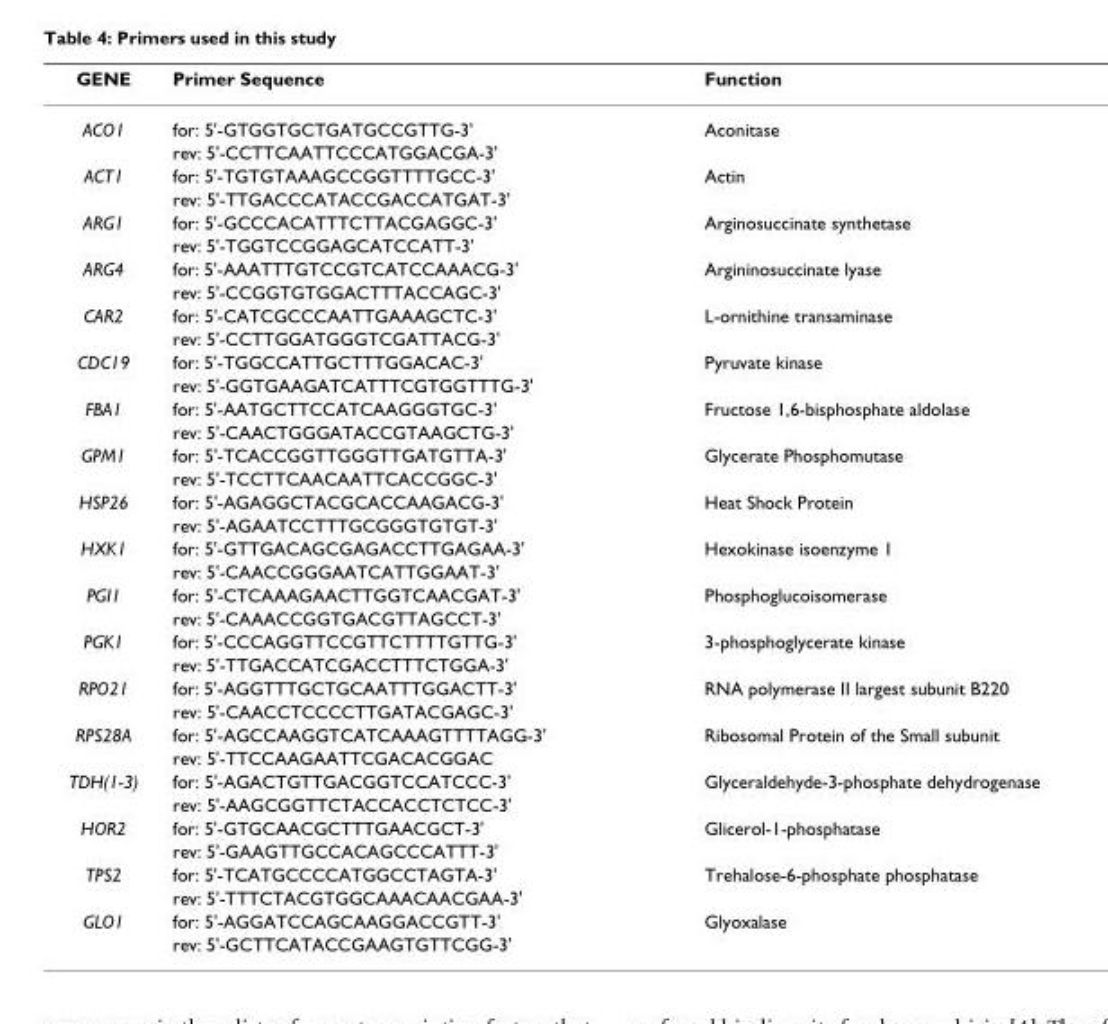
<table><thead><tr><td>GENE</td><td>Primer Sequence</td><td>Function</td></tr></thead><tbody><tr><td rowspan="2">ACO1</td><td>for: 5&#x27;-GTGGTGCTGATGCCGTTG-3&#x27;</td><td>Aconitase</td></tr><tr><td>rev: 5&#x27;-CCTTCAATTCCCATGGACGA-3&#x27;</td><td></td></tr><tr><td rowspan="2">ACT1</td><td>for: 5&#x27;-TGTGTAAAGCCGGTTTTGCC-3&#x27;</td><td>Actin</td></tr><tr><td>rev: 5&#x27;-TTGACCCATACCGACCATGAT-3&#x27;</td><td></td></tr><tr><td rowspan="2">ARG1</td><td>for: 5&#x27;-GCCCACATTTCTTACGAGGC-3&#x27;</td><td>Arginosuccinate synthetase</td></tr><tr><td>rev: 5&#x27;-TGGTCCGGAGCATCCATT-3&#x27;</td><td></td></tr><tr><td rowspan="2">ARG4</td><td>for: 5&#x27;-AAATTTGTCCGTCATCCAAACG-3&#x27;</td><td>Argininosuccinate lyase</td></tr><tr><td>rev: 5&#x27;-CCGGTGTGGACTTTACCAGC-3&#x27;</td><td></td></tr><tr><td rowspan="2">CAR2</td><td>for: 5&#x27;-CATCGCCCAATTGAAAGCTC-3&#x27;</td><td>L-ornithine transaminase</td></tr><tr><td>rev: 5&#x27;-CCTTGGATGGGTCGATTACG-3&#x27;</td><td></td></tr><tr><td rowspan="2">CDC19</td><td>for: 5&#x27;-TGGCCATTGCTTTGGACAC-3&#x27;</td><td>Pyruvate kinase</td></tr><tr><td>rev: 5&#x27;-GGTGAAGATCATTTCGTGGTTTG-3&#x27;</td><td></td></tr><tr><td rowspan="2">FBA1</td><td>for: 5&#x27;-AATGCTTCCATCAAGGGTGC-3&#x27;</td><td>Fructose 1,6-bisphosphate aldolase</td></tr><tr><td>rev: 5&#x27;-CAACTGGGATACCGTAAGCTG-3&#x27;</td><td></td></tr><tr><td rowspan="2">GPM1</td><td>for: 5&#x27;-TCACCGGTTGGGTTGATGTTA-3&#x27;</td><td>Glycerate Phosphomutase</td></tr><tr><td>rev: 5&#x27;-TCCTTCAACAATTCACCGGC-3&#x27;</td><td></td></tr><tr><td rowspan="2">HSP26</td><td>for: 5&#x27;-AGAGGCTACGCACCAAGACG-3&#x27;</td><td>Heat Shock Protein</td></tr><tr><td>rev: 5&#x27;-AGAATCCTTTGCGGGTGTGT-3&#x27;</td><td></td></tr><tr><td rowspan="2">HXK1</td><td>for: 5&#x27;-GTTGACAGCGAGACCTTGAGAA-3&#x27;</td><td>Hexokinase isoenzyme 1</td></tr><tr><td>rev: 5&#x27;-CAACCGGGAATCATTGGAAT-3&#x27;</td><td></td></tr><tr><td rowspan="2">PGI1</td><td>for: 5&#x27;-CTCAAAGAACTTGGTCAACGAT-3&#x27;</td><td>Phosphoglucoisomerase</td></tr><tr><td>rev: 5&#x27;-CAAACCGGTGACGTTAGCCT-3&#x27;</td><td></td></tr><tr><td rowspan="2">PGK1</td><td>for: 5&#x27;-CCCAGGTTCCGTTCTTTTGTTG-3&#x27;</td><td>3-phosphoglycerate kinase</td></tr><tr><td>rev: 5&#x27;-TTGACCATCGACCTTTCTGGA-3&#x27;</td><td></td></tr><tr><td rowspan="2">RPO21</td><td>for: 5&#x27;-AGGTTTGCTGCAATTTGGACTT-3&#x27;</td><td>RNA polymerase II largest subunit B220</td></tr><tr><td>rev: 5&#x27;-CAACCTCCCCTTGATACGAGC-3&#x27;</td><td></td></tr><tr><td rowspan="2">RPS28A</td><td>for: 5&#x27;-AGCCAAGGTCATCAAAGTTTTAGG-3&#x27;</td><td>Ribosomal Protein of the Small subunit</td></tr><tr><td>rev: 5&#x27;-TTCCAAGAATTCGACACGGAC</td><td></td></tr><tr><td rowspan="2">TDH(1-3)</td><td>for: 5&#x27;-AGACTGTTGACGGTCCATCCC-3&#x27;</td><td>Glyceraldehyde-3-phosphate dehydrogenase</td></tr><tr><td>rev: 5&#x27;-AAGCGGTTCTACCACCTCTCC-3&#x27;</td><td></td></tr><tr><td rowspan="2">HOR2</td><td>for: 5&#x27;-GTGCAACGCTTTGAACGCT-3&#x27;</td><td>Glicerol-1-phosphatase</td></tr><tr><td>rev: 5&#x27;-GAAGTTGCCACAGCCCATTT-3&#x27;</td><td></td></tr><tr><td rowspan="2">TPS2</td><td>for: 5&#x27;-TCATGCCCCATGGCCTAGTA-3&#x27;</td><td>Trehalose-6-phosphate phosphatase</td></tr><tr><td>rev: 5&#x27;-TTTCTACGTGGCAAACAACGAA-3&#x27;</td><td></td></tr><tr><td rowspan="2">GLO1</td><td>for: 5&#x27;-AGGATCCAGCAAGGACCGTT-3&#x27;</td><td>Glyoxalase</td></tr><tr><td>rev: 5&#x27;-GCTTCATACCGAAGTGTTCGG-3&#x27;</td><td></td></tr></tbody></table>